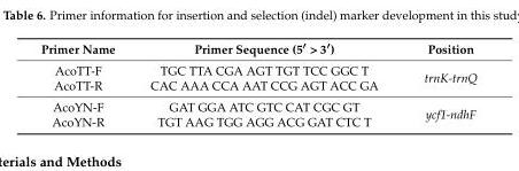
<table><thead><tr><td>Primer Name</td><td>Primer Sequence (5′ &gt; 3′)</td><td>Position</td></tr></thead><tbody><tr><td>AcoTT-F</td><td>TGC TTA CGA AGT TGT TCC GGC T</td><td rowspan="2">trnK-trnQ</td></tr><tr><td>AcoTT-R</td><td>CAC AAA CCA AAT CCG AGT ACC GA</td></tr><tr><td>AcoYN-F</td><td>GAT GGA ATC GTC CAT CGC GT</td><td rowspan="2">ycf1-ndhF</td></tr><tr><td>AcoYN-R</td><td>TGT AAG TGG AGG ACG GAT CTC T</td></tr></tbody></table>